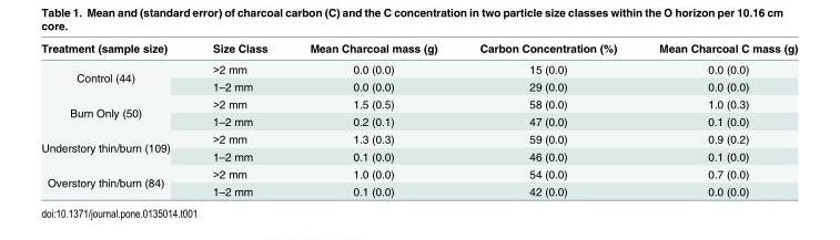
<table><thead><tr><td>Treatment (sample size)</td><td>Size Class</td><td>Mean Charcoal mass (g)</td><td>Carbon Concentration (%)</td><td>Mean Charcoal C mass (g)</td></tr></thead><tbody><tr><td rowspan="2">Control (44)</td><td>&gt;2 mm</td><td>0.0 (0.0)</td><td>15 (0.0)</td><td>0.0 (0.0)</td></tr><tr><td>1–2 mm</td><td>0.0 (0.0)</td><td>29 (0.0)</td><td>0.0 (0.0)</td></tr><tr><td rowspan="2">Burn Only (50)</td><td>&gt;2 mm</td><td>1.5 (0.5)</td><td>58 (0.0)</td><td>1.0 (0.3)</td></tr><tr><td>1–2 mm</td><td>0.2 (0.1)</td><td>47 (0.0)</td><td>0.1 (0.0)</td></tr><tr><td rowspan="2">Understory thin/burn (109)</td><td>&gt;2 mm</td><td>1.3 (0.3)</td><td>59 (0.0)</td><td>0.9 (0.2)</td></tr><tr><td>1–2 mm</td><td>0.1 (0.0)</td><td>46 (0.0)</td><td>0.1 (0.0)</td></tr><tr><td rowspan="2">Overstory thin/burn (84)</td><td>&gt;2 mm</td><td>1.0 (0.0)</td><td>54 (0.0)</td><td>0.7 (0.0)</td></tr><tr><td>1–2 mm</td><td>0.1 (0.0)</td><td>42 (0.0)</td><td>0.0 (0.0)</td></tr></tbody></table>